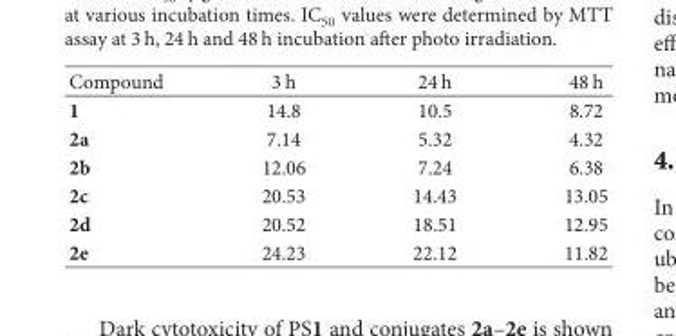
<table><thead><tr><td>Compound</td><td>3 h</td><td>24 h</td><td>48 h</td></tr></thead><tbody><tr><td>1</td><td>14.8</td><td>10.5</td><td>8.72</td></tr><tr><td>2a</td><td>7.14</td><td>5.32</td><td>4.32</td></tr><tr><td>2b</td><td>12.06</td><td>7.24</td><td>6.38</td></tr><tr><td>2c</td><td>20.53</td><td>14.43</td><td>13.05</td></tr><tr><td>2d</td><td>20.52</td><td>18.51</td><td>12.95</td></tr><tr><td>2e</td><td>24.23</td><td>22.12</td><td>11.82</td></tr></tbody></table>